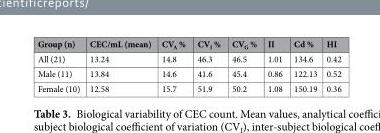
<table><thead><tr><td>Group (n)</td><td>CEC/mL (mean)</td><td>CV<sub>A</sub> %</td><td>CV<sub>I</sub> %</td><td>CV<sub>G</sub> %</td><td>II</td><td>Cd %</td><td>HI</td></tr></thead><tbody><tr><td>All (21)</td><td>13.24</td><td>14.8</td><td>46.3</td><td>46.5</td><td>1.01</td><td>134.6</td><td>0.42</td></tr><tr><td>Male (11)</td><td>13.84</td><td>14.6</td><td>41.6</td><td>45.4</td><td>0.86</td><td>122.13</td><td>0.52</td></tr><tr><td>Female (10)</td><td>12.58</td><td>15.7</td><td>51.9</td><td>50.2</td><td>1.08</td><td>150.19</td><td>0.36</td></tr></tbody></table>